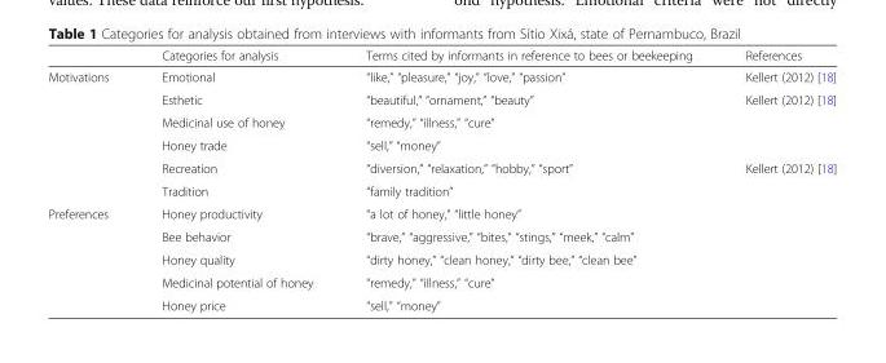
<table><thead><tr><td></td><td>Categories for analysis</td><td>Terms cited by informants in reference to bees or beekeeping</td><td>References</td></tr></thead><tbody><tr><td rowspan="6">Motivations</td><td>Emotional</td><td>“like,” “pleasure,” “joy,” “love,” “passion”</td><td>Kellert (2012) [18]</td></tr><tr><td>Esthetic</td><td>“beautiful,” “ornament,” “beauty”</td><td>Kellert (2012) [18]</td></tr><tr><td>Medicinal use of honey</td><td>“remedy,” “illness,” “cure”</td><td></td></tr><tr><td>Honey trade</td><td>“sell,” “money”</td><td></td></tr><tr><td>Recreation</td><td>“diversion,” “relaxation,” “hobby,” “sport”</td><td>Kellert (2012) [18]</td></tr><tr><td>Tradition</td><td>“family tradition”</td><td></td></tr><tr><td rowspan="5">Preferences</td><td>Honey productivity</td><td>“a lot of honey,” “little honey”</td><td></td></tr><tr><td>Bee behavior</td><td>“brave,” “aggressive,” “bites,” “stings,” “meek,” “calm”</td><td></td></tr><tr><td>Honey quality</td><td>“dirty honey,” “clean honey,” “dirty bee,” “clean bee”</td><td></td></tr><tr><td>Medicinal potential of honey</td><td>“remedy,” “illness,” “cure”</td><td></td></tr><tr><td>Honey price</td><td>“sell,” “money”</td><td></td></tr></tbody></table>